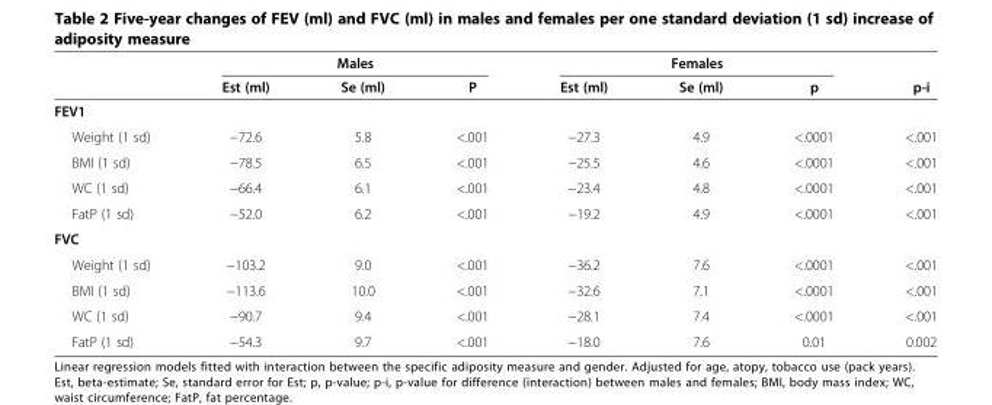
<table><thead><tr><td rowspan="2"></td><td colspan="3">Males</td><td colspan="3">Females</td><td rowspan="2">p-i</td></tr><tr><td>Est (ml)</td><td>Se (ml)</td><td>P</td><td>Est (ml)</td><td>Se (ml)</td><td>p</td></tr></thead><tbody><tr><td colspan="8">FEV1</td></tr><tr><td>Weight (1 sd)</td><td>−72.6</td><td>5.8</td><td>&lt;.001</td><td>−27.3</td><td>4.9</td><td>&lt;.0001</td><td>&lt;.001</td></tr><tr><td>BMI (1 sd)</td><td>−78.5</td><td>6.5</td><td>&lt;.001</td><td>−25.5</td><td>4.6</td><td>&lt;.0001</td><td>&lt;.001</td></tr><tr><td>WC (1 sd)</td><td>−66.4</td><td>6.1</td><td>&lt;.001</td><td>−23.4</td><td>4.8</td><td>&lt;.0001</td><td>&lt;.001</td></tr><tr><td>FatP (1 sd)</td><td>−52.0</td><td>6.2</td><td>&lt;.001</td><td>−19.2</td><td>4.9</td><td>&lt;.0001</td><td>&lt;.001</td></tr><tr><td colspan="8">FVC</td></tr><tr><td>Weight (1 sd)</td><td>−103.2</td><td>9.0</td><td>&lt;.001</td><td>−36.2</td><td>7.6</td><td>&lt;.0001</td><td>&lt;.001</td></tr><tr><td>BMI (1 sd)</td><td>−113.6</td><td>10.0</td><td>&lt;.001</td><td>−32.6</td><td>7.1</td><td>&lt;.0001</td><td>&lt;.001</td></tr><tr><td>WC (1 sd)</td><td>−90.7</td><td>9.4</td><td>&lt;.001</td><td>−28.1</td><td>7.4</td><td>&lt;.0001</td><td>&lt;.001</td></tr><tr><td>FatP (1 sd)</td><td>−54.3</td><td>9.7</td><td>&lt;.001</td><td>−18.0</td><td>7.6</td><td>0.01</td><td>0.002</td></tr></tbody></table>